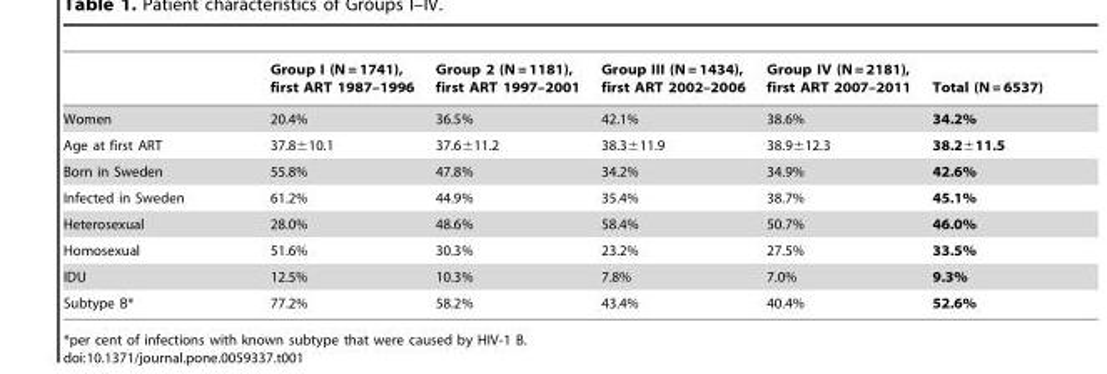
<table><thead><tr><td></td><td>Group I (N = 1741), first ART 1987–1996</td><td>Group 2 (N = 1181), first ART 1997–2001</td><td>Group III (N = 1434), first ART 2002–2006</td><td>Group IV (N = 2181), first ART 2007–2011</td><td>Total (N = 6537)</td></tr></thead><tbody><tr><td>Women</td><td>20.4%</td><td>36.5%</td><td>42.1%</td><td>38.6%</td><td>34.2%</td></tr><tr><td>Age at first ART</td><td>37.8±10.1</td><td>37.6±11.2</td><td>38.3±11.9</td><td>38.9±12.3</td><td>38.2±11.5</td></tr><tr><td>Born in Sweden</td><td>55.8%</td><td>47.8%</td><td>34.2%</td><td>34.9%</td><td>42.6%</td></tr><tr><td>Infected in Sweden</td><td>61.2%</td><td>44.9%</td><td>35.4%</td><td>38.7%</td><td>45.1%</td></tr><tr><td>Heterosexual</td><td>28.0%</td><td>48.6%</td><td>58.4%</td><td>50.7%</td><td>46.0%</td></tr><tr><td>Homosexual</td><td>51.6%</td><td>30.3%</td><td>23.2%</td><td>27.5%</td><td>33.5%</td></tr><tr><td>IDU</td><td>12.5%</td><td>10.3%</td><td>7.8%</td><td>7.0%</td><td>9.3%</td></tr><tr><td>Subtype B*</td><td>77.2%</td><td>58.2%</td><td>43.4%</td><td>40.4%</td><td>52.6%</td></tr></tbody></table>